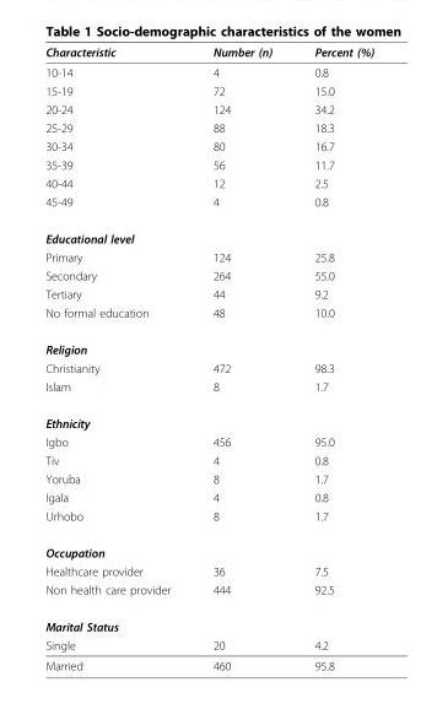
<table><thead><tr><td>Characteristic</td><td>Number (n)</td><td>Percent (%)</td></tr></thead><tbody><tr><td>10-14</td><td>4</td><td>0.8</td></tr><tr><td>15-19</td><td>72</td><td>15.0</td></tr><tr><td>20-24</td><td>124</td><td>34.2</td></tr><tr><td>25-29</td><td>88</td><td>18.3</td></tr><tr><td>30-34</td><td>80</td><td>16.7</td></tr><tr><td>35-39</td><td>56</td><td>11.7</td></tr><tr><td>40-44</td><td>12</td><td>2.5</td></tr><tr><td>45-49</td><td>4</td><td>0.8</td></tr><tr><td colspan="3">Educational level</td></tr><tr><td>Primary</td><td>124</td><td>25.8</td></tr><tr><td>Secondary</td><td>264</td><td>55.0</td></tr><tr><td>Tertiary</td><td>44</td><td>9.2</td></tr><tr><td>No formal education</td><td>48</td><td>10.0</td></tr><tr><td colspan="3">Religion</td></tr><tr><td>Christianity</td><td>472</td><td>98.3</td></tr><tr><td>Islam</td><td>8</td><td>1.7</td></tr><tr><td colspan="3">Ethnicity</td></tr><tr><td>Igbo</td><td>456</td><td>95.0</td></tr><tr><td>Tiv</td><td>4</td><td>0.8</td></tr><tr><td>Yoruba</td><td>8</td><td>1.7</td></tr><tr><td>Igala</td><td>4</td><td>0.8</td></tr><tr><td>Urhobo</td><td>8</td><td>1.7</td></tr><tr><td colspan="3">Occupation</td></tr><tr><td>Healthcare provider</td><td>36</td><td>7.5</td></tr><tr><td>Non health care provider</td><td>444</td><td>92.5</td></tr><tr><td colspan="3">Marital Status</td></tr><tr><td>Single</td><td>20</td><td>4.2</td></tr><tr><td>Married</td><td>460</td><td>95.8</td></tr></tbody></table>